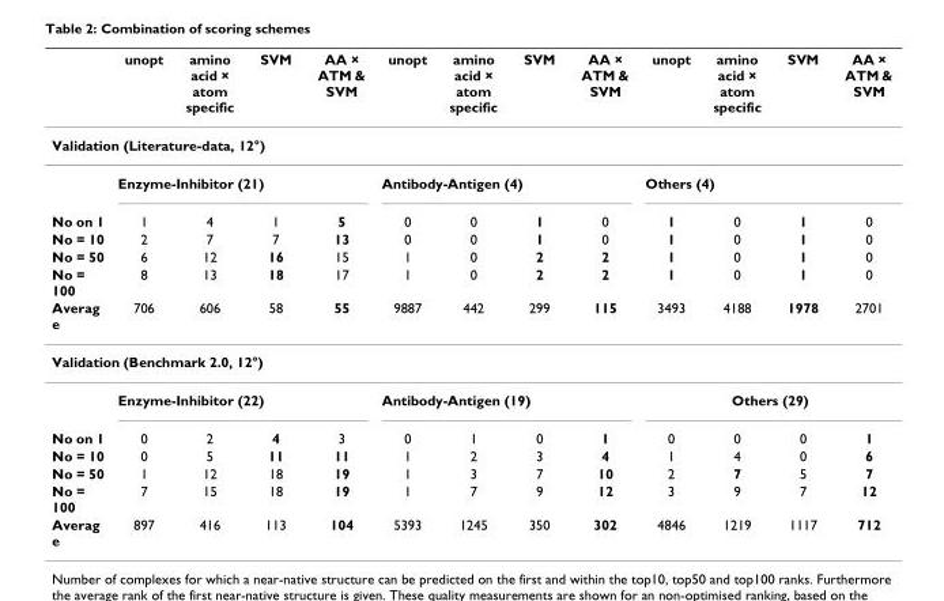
<table><thead><tr><td></td><td>unopt</td><td>amino acid × atom specific</td><td>SVM</td><td>AA × ATM &amp; SVM</td><td>unopt</td><td>amino acid × atom specific</td><td>SVM</td><td>AA × ATM &amp; SVM</td><td>unopt</td><td>amino acid × atom specific</td><td>SVM</td><td>AA × ATM &amp; SVM</td></tr></thead><tbody><tr><td colspan="13">Validation (Literature-data, 12°)</td></tr><tr><td></td><td colspan="4">Enzyme-Inhibitor (21)</td><td colspan="4">Antibody-Antigen (4)</td><td colspan="4">Others (4)</td></tr><tr><td>No on 1</td><td>1</td><td>4</td><td>1</td><td>5</td><td>0</td><td>0</td><td>1</td><td>0</td><td>1</td><td>0</td><td>1</td><td>0</td></tr><tr><td>No = 10</td><td>2</td><td>7</td><td>7</td><td>13</td><td>0</td><td>0</td><td>1</td><td>0</td><td>1</td><td>0</td><td>1</td><td>0</td></tr><tr><td>No = 50</td><td>6</td><td>12</td><td>16</td><td>15</td><td>1</td><td>0</td><td>2</td><td>2</td><td>1</td><td>0</td><td>1</td><td>0</td></tr><tr><td>No = 100</td><td>8</td><td>13</td><td>18</td><td>17</td><td>1</td><td>0</td><td>2</td><td>2</td><td>1</td><td>0</td><td>1</td><td>0</td></tr><tr><td>Averag e</td><td>706</td><td>606</td><td>58</td><td>55</td><td>9887</td><td>442</td><td>299</td><td>115</td><td>3493</td><td>4188</td><td>1978</td><td>2701</td></tr><tr><td colspan="13">Validation (Benchmark 2.0, 12°)</td></tr><tr><td></td><td colspan="4">Enzyme-Inhibitor (22)</td><td colspan="4">Antibody-Antigen (19)</td><td colspan="4">Others (29)</td></tr><tr><td>No on 1</td><td>0</td><td>2</td><td>4</td><td>3</td><td>0</td><td>1</td><td>0</td><td>1</td><td>0</td><td>0</td><td>0</td><td>1</td></tr><tr><td>No = 10</td><td>0</td><td>5</td><td>11</td><td>11</td><td>1</td><td>2</td><td>3</td><td>4</td><td>1</td><td>4</td><td>0</td><td>6</td></tr><tr><td>No = 50</td><td>1</td><td>12</td><td>18</td><td>19</td><td>1</td><td>3</td><td>7</td><td>10</td><td>2</td><td>7</td><td>5</td><td>7</td></tr><tr><td>No = 100</td><td>7</td><td>15</td><td>18</td><td>19</td><td>1</td><td>7</td><td>9</td><td>12</td><td>3</td><td>9</td><td>7</td><td>12</td></tr><tr><td>Averag e</td><td>897</td><td>416</td><td>113</td><td>104</td><td>5393</td><td>1245</td><td>350</td><td>302</td><td>4846</td><td>1219</td><td>1117</td><td>712</td></tr></tbody></table>